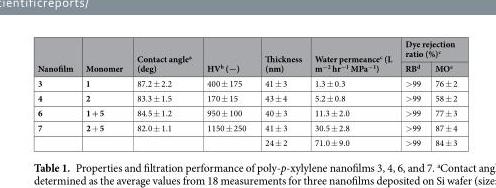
<table><thead><tr><td rowspan="2">Nanofilm</td><td rowspan="2">Monomer</td><td rowspan="2">Contact angle<sup>a</sup> (deg)</td><td rowspan="2">HV<sup>b</sup> (−)</td><td rowspan="2">Thickness (nm)</td><td rowspan="2">Water permeance<sup>c</sup> (L m<sup>−2</sup> hr<sup>−1</sup> MPa<sup>−1</sup>)</td><td colspan="2">Dye rejection ratio (%)<sup>c</sup></td></tr><tr><td>RB<sup>d</sup></td><td>MO<sup>e</sup></td></tr></thead><tbody><tr><td>3</td><td>1</td><td>87.2 ± 2.2</td><td>400 ± 175</td><td>41 ± 3</td><td>1.3 ± 0.3</td><td>&gt;99</td><td>76 ± 2</td></tr><tr><td>4</td><td>2</td><td>83.3 ± 1.5</td><td>170 ± 15</td><td>43 ± 4</td><td>5.2 ± 0.8</td><td>&gt;99</td><td>58 ± 2</td></tr><tr><td>6</td><td>1 + 5</td><td>84.5 ± 1.2</td><td>950 ± 100</td><td>40 ± 3</td><td>11.3 ± 2.0</td><td>&gt;99</td><td>77 ± 3</td></tr><tr><td rowspan="2">7</td><td>2 + 5</td><td>82.0 ± 1.1</td><td>1150 ± 250</td><td>41 ± 3</td><td>30.5 ± 2.8</td><td>&gt;99</td><td>87 ± 4</td></tr><tr><td></td><td></td><td></td><td>24 ± 2</td><td>71.0 ± 9.0</td><td>&gt;99</td><td>84 ± 3</td></tr></tbody></table>